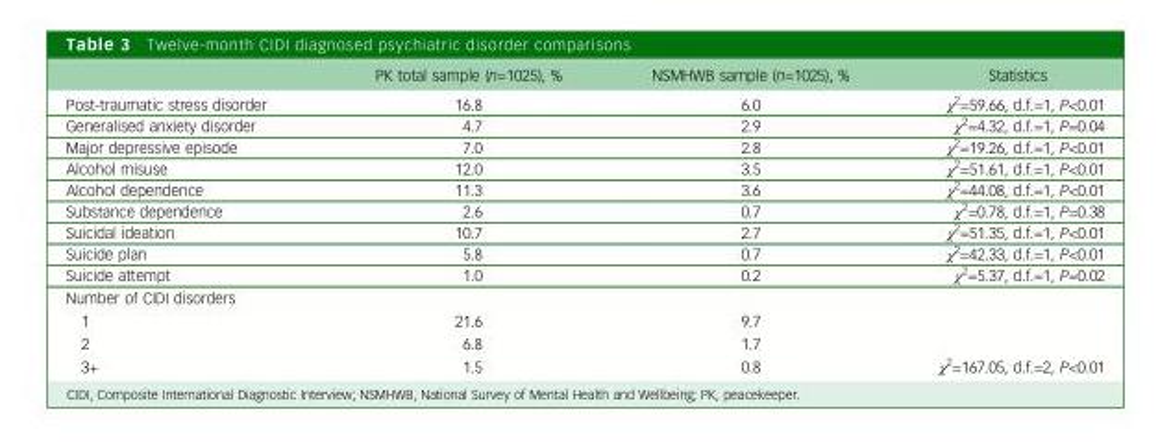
<table><thead><tr><td></td><td>PK total sample (n=1025), %</td><td>NSMHWB sample (n=1025), %</td><td>Statistics</td></tr></thead><tbody><tr><td>Post-traumatic stress disorder</td><td>16.8</td><td>6.0</td><td>χ<sup>2</sup>=59.66, d.f.=1, P&lt;0.01</td></tr><tr><td>Generalised anxiety disorder</td><td>4.7</td><td>2.9</td><td>χ<sup>2</sup>=4.32, d.f.=1, P=0.04</td></tr><tr><td>Major depressive episode</td><td>7.0</td><td>2.8</td><td>χ<sup>2</sup>=19.26, d.f.=1, P&lt;0.01</td></tr><tr><td>Alcohol misuse</td><td>12.0</td><td>3.5</td><td>χ<sup>2</sup>=51.61, d.f.=1, P&lt;0.01</td></tr><tr><td>Alcohol dependence</td><td>11.3</td><td>3.6</td><td>χ<sup>2</sup>=44.08, d.f.=1, P&lt;0.01</td></tr><tr><td>Substance dependence</td><td>2.6</td><td>0.7</td><td>χ<sup>2</sup>=0.78, d.f.=1, P=0.38</td></tr><tr><td>Suicidal ideation</td><td>10.7</td><td>2.7</td><td>χ<sup>2</sup>=51.35, d.f.=1, P&lt;0.01</td></tr><tr><td>Suicide plan</td><td>5.8</td><td>0.7</td><td>χ<sup>2</sup>=42.33, d.f.=1, P&lt;0.01</td></tr><tr><td>Suicide attempt</td><td>1.0</td><td>0.2</td><td>χ<sup>2</sup>=5.37, d.f.=1, P=0.02</td></tr><tr><td colspan="4">Number of CIDI disorders</td></tr><tr><td>1</td><td>21.6</td><td>9.7</td><td></td></tr><tr><td>2</td><td>6.8</td><td>1.7</td><td></td></tr><tr><td>3+</td><td>1.5</td><td>0.8</td><td>χ<sup>2</sup>=167.05, d.f.=2, P&lt;0.01</td></tr></tbody></table>